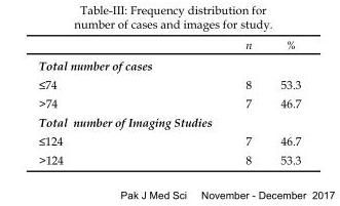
<table><thead><tr><td></td><td>n</td><td>%</td></tr></thead><tbody><tr><td colspan="3">Total number of cases</td></tr><tr><td>≤74</td><td>8</td><td>53.3</td></tr><tr><td>&gt;74</td><td>7</td><td>46.7</td></tr><tr><td colspan="3">Total number of Imaging Studies</td></tr><tr><td>≤124</td><td>7</td><td>46.7</td></tr><tr><td>&gt;124</td><td>8</td><td>53.3</td></tr></tbody></table>